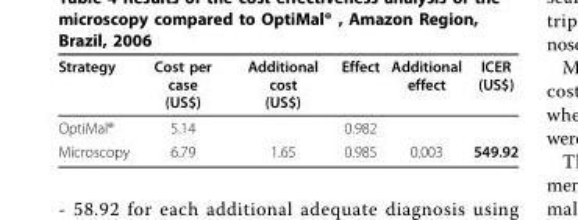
<table><thead><tr><td>Strategy</td><td>Cost per case (US$)</td><td>Additional cost (US$)</td><td>Effect</td><td>Additional effect</td><td>ICER (US$)</td></tr></thead><tbody><tr><td>OptiMal<sup>®</sup></td><td>5.14</td><td></td><td>0.982</td><td></td><td></td></tr><tr><td>Microscopy</td><td>6.79</td><td>1.65</td><td>0.985</td><td>0.003</td><td>549.92</td></tr></tbody></table>